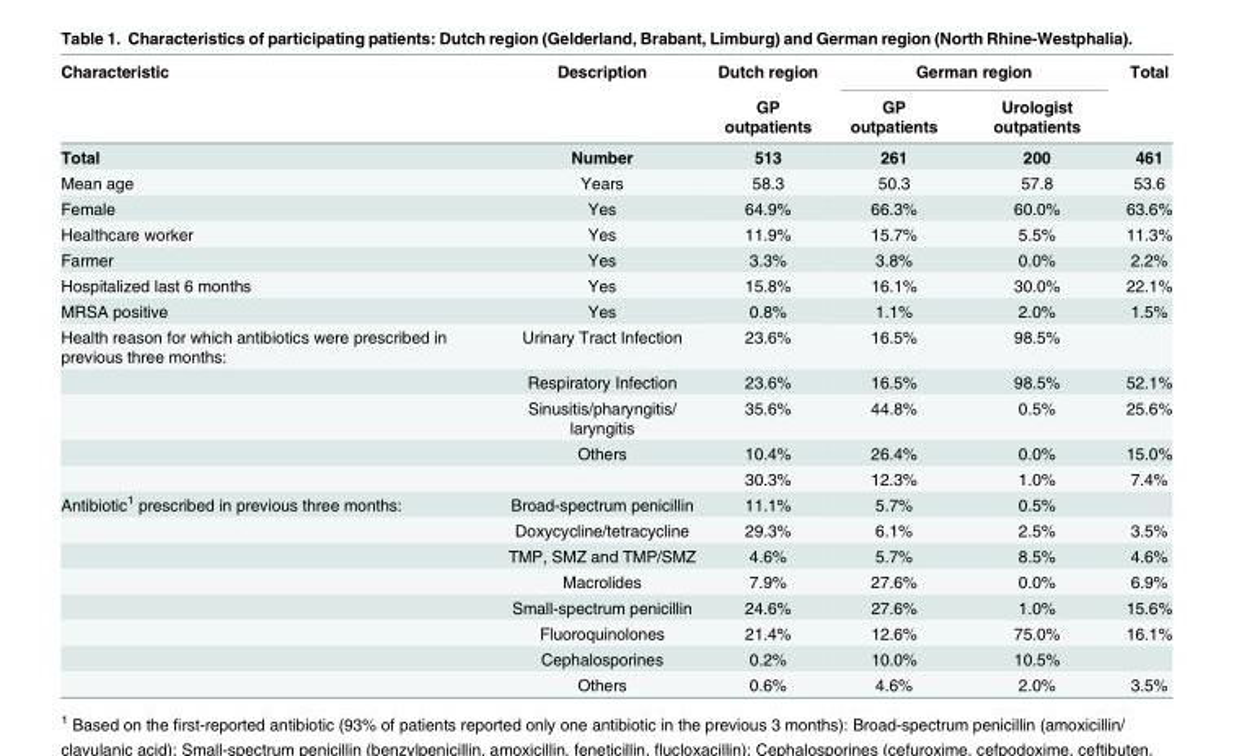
<table><thead><tr><td rowspan="2">Characteristic</td><td rowspan="2">Description</td><td rowspan="2">Dutch region GP outpatients</td><td colspan="2">German region</td><td rowspan="2">Total</td></tr><tr><td>GP outpatients</td><td>Urologist outpatients</td></tr></thead><tbody><tr><td>Total</td><td>Number</td><td>513</td><td>261</td><td>200</td><td>461</td></tr><tr><td>Mean age</td><td>Years</td><td>58.3</td><td>50.3</td><td>57.8</td><td>53.6</td></tr><tr><td>Female</td><td>Yes</td><td>64.9%</td><td>66.3%</td><td>60.0%</td><td>63.6%</td></tr><tr><td>Healthcare worker</td><td>Yes</td><td>11.9%</td><td>15.7%</td><td>5.5%</td><td>11.3%</td></tr><tr><td>Farmer</td><td>Yes</td><td>3.3%</td><td>3.8%</td><td>0.0%</td><td>2.2%</td></tr><tr><td>Hospitalized last 6 months</td><td>Yes</td><td>15.8%</td><td>16.1%</td><td>30.0%</td><td>22.1%</td></tr><tr><td>MRSA positive</td><td>Yes</td><td>0.8%</td><td>1.1%</td><td>2.0%</td><td>1.5%</td></tr><tr><td rowspan="5">Health reason for which antibiotics were prescribed in previous three months:</td><td>Urinary Tract Infection</td><td>23.6%</td><td>16.5%</td><td>98.5%</td><td></td></tr><tr><td>Respiratory Infection</td><td>23.6%</td><td>16.5%</td><td>98.5%</td><td>52.1%</td></tr><tr><td>Sinusitis/pharyngitis/ laryngitis</td><td>35.6%</td><td>44.8%</td><td>0.5%</td><td>25.6%</td></tr><tr><td>Others</td><td>10.4%</td><td>26.4%</td><td>0.0%</td><td>15.0%</td></tr><tr><td></td><td>30.3%</td><td>12.3%</td><td>1.0%</td><td>7.4%</td></tr><tr><td rowspan="8">Antibiotic<sup>1</sup> prescribed in previous three months:</td><td>Broad-spectrum penicillin</td><td>11.1%</td><td>5.7%</td><td>0.5%</td><td></td></tr><tr><td>Doxycycline/tetracycline</td><td>29.3%</td><td>6.1%</td><td>2.5%</td><td>3.5%</td></tr><tr><td>TMP, SMZ and TMP/SMZ</td><td>4.6%</td><td>5.7%</td><td>8.5%</td><td>4.6%</td></tr><tr><td>Macrolides</td><td>7.9%</td><td>27.6%</td><td>0.0%</td><td>6.9%</td></tr><tr><td>Small-spectrum penicillin</td><td>24.6%</td><td>27.6%</td><td>1.0%</td><td>15.6%</td></tr><tr><td>Fluoroquinolones</td><td>21.4%</td><td>12.6%</td><td>75.0%</td><td>16.1%</td></tr><tr><td>Cephalosporines</td><td>0.2%</td><td>10.0%</td><td>10.5%</td><td></td></tr><tr><td>Others</td><td>0.6%</td><td>4.6%</td><td>2.0%</td><td>3.5%</td></tr></tbody></table>